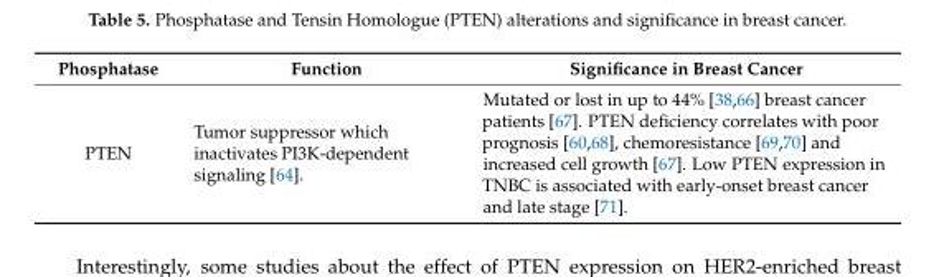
<table><thead><tr><td>Phosphatase</td><td>Function</td><td>Significance in Breast Cancer</td></tr></thead><tbody><tr><td>PTEN</td><td>Tumor suppressor which inactivates PI3K-dependent signaling [64].</td><td>Mutated or lost in up to 44% [38,66] breast cancer patients [67]. PTEN deficiency correlates with poor prognosis [60,68], chemoresistance [69,70] and increased cell growth [67]. Low PTEN expression in TNBC is associated with early-onset breast cancer and late stage [71].</td></tr></tbody></table>